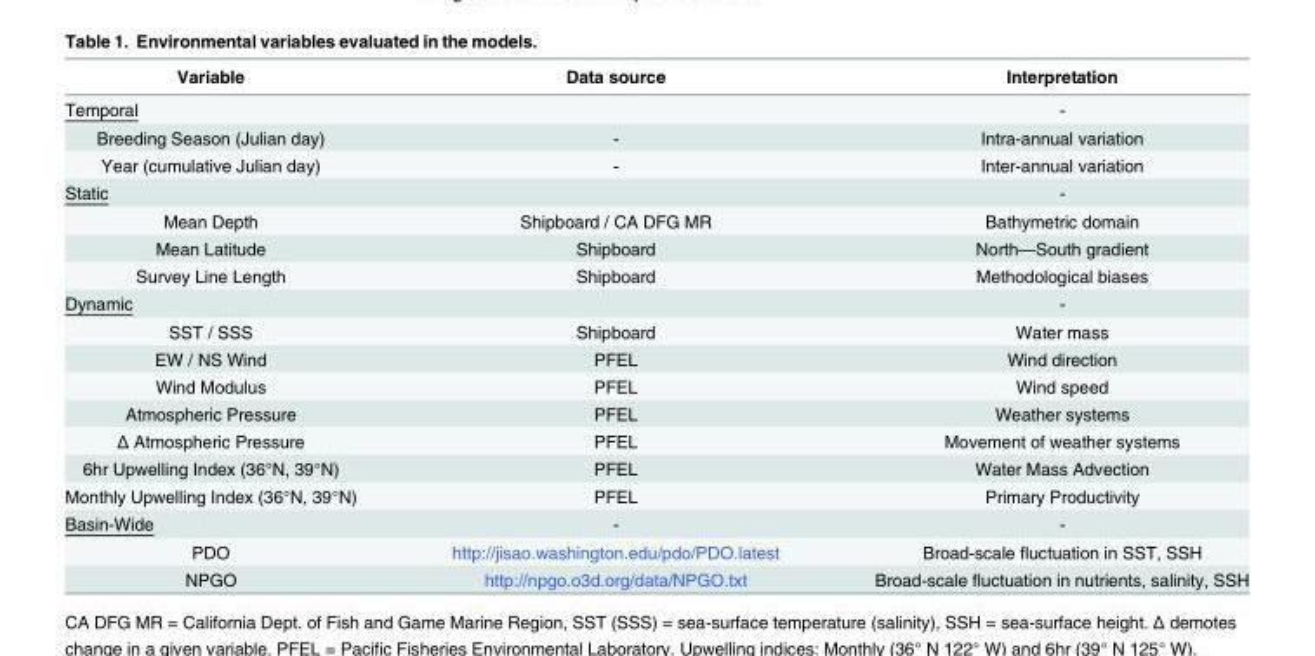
<table><thead><tr><td>Variable</td><td>Data source</td><td>Interpretation</td></tr></thead><tbody><tr><td>Temporal</td><td></td><td>-</td></tr><tr><td>Breeding Season (Julian day)</td><td>-</td><td>Intra-annual variation</td></tr><tr><td>Year (cumulative Julian day)</td><td>-</td><td>Inter-annual variation</td></tr><tr><td>Static</td><td></td><td>-</td></tr><tr><td>Mean Depth</td><td>Shipboard / CA DFG MR</td><td>Bathymetric domain</td></tr><tr><td>Mean Latitude</td><td>Shipboard</td><td>North—South gradient</td></tr><tr><td>Survey Line Length</td><td>Shipboard</td><td>Methodological biases</td></tr><tr><td>Dynamic</td><td></td><td>-</td></tr><tr><td>SST / SSS</td><td>Shipboard</td><td>Water mass</td></tr><tr><td>EW / NS Wind</td><td>PFEL</td><td>Wind direction</td></tr><tr><td>Wind Modulus</td><td>PFEL</td><td>Wind speed</td></tr><tr><td>Atmospheric Pressure</td><td>PFEL</td><td>Weather systems</td></tr><tr><td>Δ Atmospheric Pressure</td><td>PFEL</td><td>Movement of weather systems</td></tr><tr><td>6hr Upwelling Index (36°N, 39°N)</td><td>PFEL</td><td>Water Mass Advection</td></tr><tr><td>Monthly Upwelling Index (36°N, 39°N)</td><td>PFEL</td><td>Primary Productivity</td></tr><tr><td>Basin-Wide</td><td>-</td><td>-</td></tr><tr><td>PDO</td><td>http://jisao.washington.edu/pdo/PDO.latest</td><td>Broad-scale fluctuation in SST, SSH</td></tr><tr><td>NPGO</td><td>http://npgo.o3d.org/data/NPGO.txt</td><td>Broad-scale fluctuation in nutrients, salinity, SSH</td></tr></tbody></table>